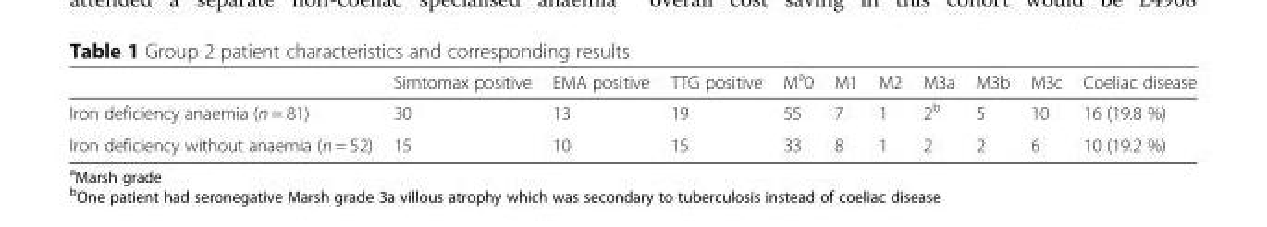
<table><thead><tr><td></td><td>Simtomax positive</td><td>EMA positive</td><td>TTG positive</td><td>M<sup>a</sup>0</td><td>M1</td><td>M2</td><td>M3a</td><td>M3b</td><td>M3c</td><td>Coeliac disease</td></tr></thead><tbody><tr><td>Iron deficiency anaemia (n = 81)</td><td>30</td><td>13</td><td>19</td><td>55</td><td>7</td><td>1</td><td>2<sup>b</sup></td><td>5</td><td>10</td><td>16 (19.8 %)</td></tr><tr><td>Iron deficiency without anaemia (n = 52)</td><td>15</td><td>10</td><td>15</td><td>33</td><td>8</td><td>1</td><td>2</td><td>2</td><td>6</td><td>10 (19.2 %)</td></tr></tbody></table>